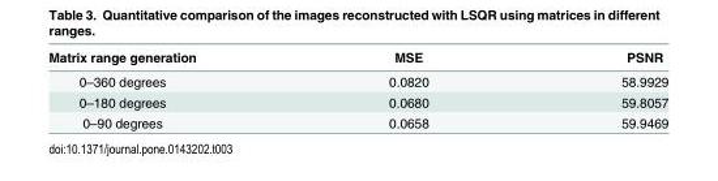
<table><thead><tr><td>Matrix range generation</td><td>MSE</td><td>PSNR</td></tr></thead><tbody><tr><td>0–360 degrees</td><td>0.0820</td><td>58.9929</td></tr><tr><td>0–180 degrees</td><td>0.0680</td><td>59.8057</td></tr><tr><td>0–90 degrees</td><td>0.0658</td><td>59.9469</td></tr></tbody></table>